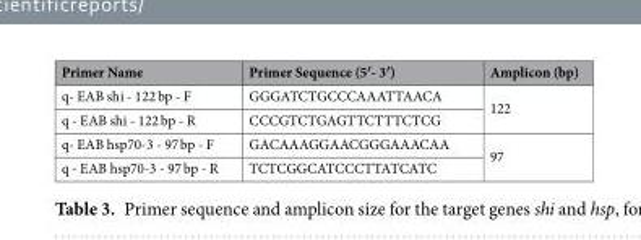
<table><thead><tr><td>Primer Name</td><td>Primer Sequence (5′- 3′)</td><td>Amplicon (bp)</td></tr></thead><tbody><tr><td>q- EAB shi - 122 bp - F</td><td>GGGATCTGCCCAAATTAACA</td><td rowspan="2">122</td></tr><tr><td>q - EAB shi - 122 bp - R</td><td>CCCGTCTGAGTTCTTTCTCG</td></tr><tr><td>q- EAB hsp70-3 - 97 bp - F</td><td>GACAAAGGAACGGGAAACAA</td><td rowspan="2">97</td></tr><tr><td>q - EAB hsp70-3 - 97 bp - R</td><td>TCTCGGCATCCCTTATCATC</td></tr></tbody></table>